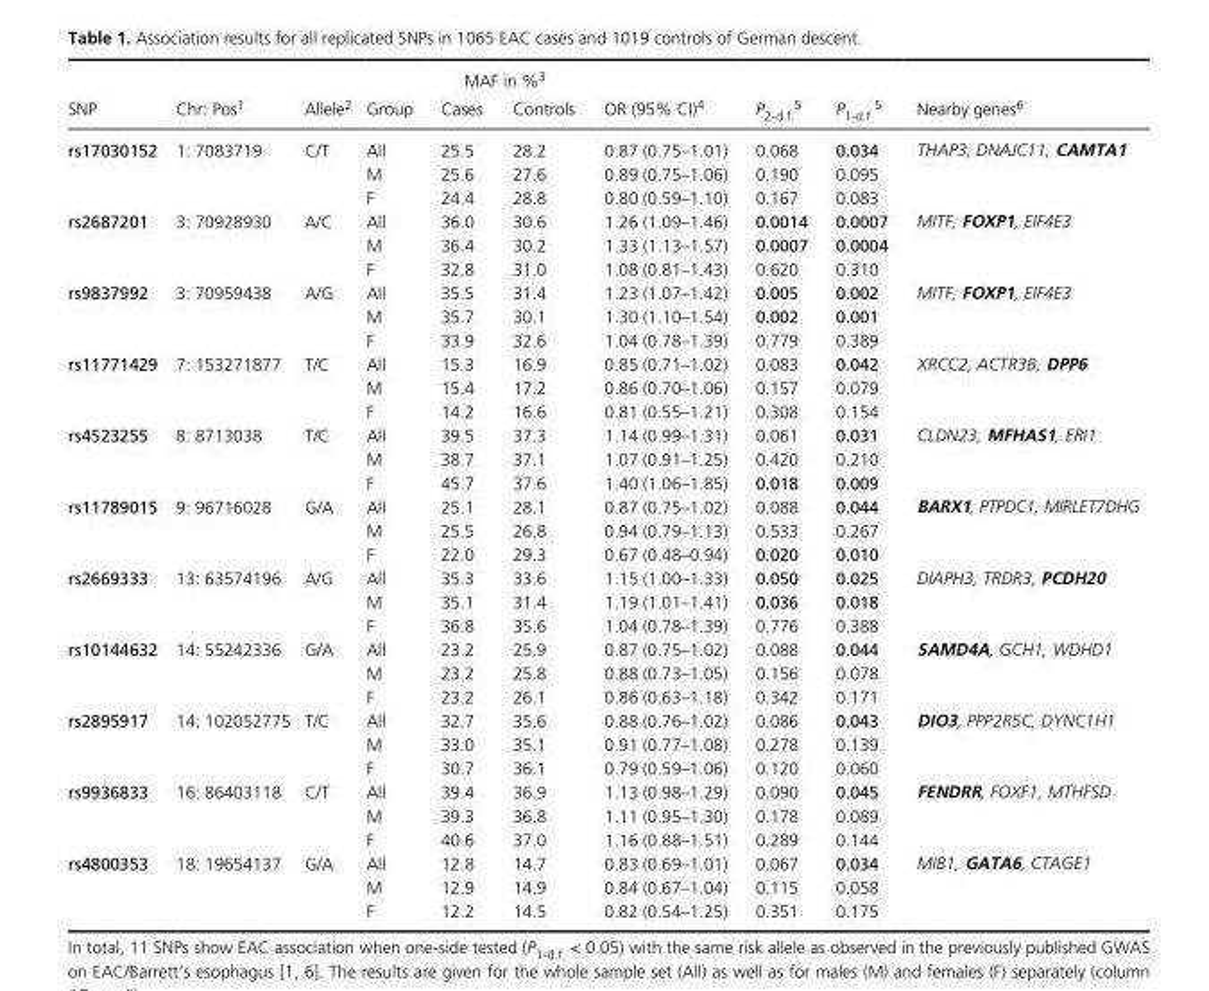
<table><thead><tr><td colspan="10">MAF in %<sup>3</sup></td></tr><tr><td>SNP</td><td>Chr: Pos<sup>1</sup></td><td>Allele<sup>2</sup></td><td>Group</td><td>Cases</td><td>Controls</td><td>OR (95% CI)<sup>4</sup></td><td>P<sub>2-d.f.</sub> 5</td><td>P<sub>1-d.f.</sub> 5</td><td>Nearby genes<sup>6</sup></td></tr></thead><tbody><tr><td rowspan="3">rs17030152</td><td rowspan="3">1: 7083719</td><td rowspan="3">C/T</td><td>All</td><td>25.5</td><td>28.2</td><td>0.87 (0.75–1.01)</td><td>0.068</td><td>0.034</td><td rowspan="3">THAP3, DNAJC11, CAMTA1</td></tr><tr><td>M</td><td>25.6</td><td>27.6</td><td>0.89 (0.75–1.06)</td><td>0.190</td><td>0.095</td></tr><tr><td>F</td><td>24.4</td><td>28.8</td><td>0.80 (0.59–1.10)</td><td>0.167</td><td>0.083</td></tr><tr><td rowspan="3">rs2687201</td><td rowspan="3">3: 70928930</td><td rowspan="3">A/C</td><td>All</td><td>36.0</td><td>30.6</td><td>1.26 (1.09–1.46)</td><td>0.0014</td><td>0.0007</td><td rowspan="3">MITF, FOXP1, EIF4E3</td></tr><tr><td>M</td><td>36.4</td><td>30.2</td><td>1.33 (1.13–1.57)</td><td>0.0007</td><td>0.0004</td></tr><tr><td>F</td><td>32.8</td><td>31.0</td><td>1.08 (0.81–1.43)</td><td>0.620</td><td>0.310</td></tr><tr><td rowspan="3">rs9837992</td><td rowspan="3">3: 70959438</td><td rowspan="3">A/G</td><td>All</td><td>35.5</td><td>31.4</td><td>1.23 (1.07–1.42)</td><td>0.005</td><td>0.002</td><td rowspan="3">MITF, FOXP1, EIF4E3</td></tr><tr><td>M</td><td>35.7</td><td>30.1</td><td>1.30 (1.10–1.54)</td><td>0.002</td><td>0.001</td></tr><tr><td>F</td><td>33.9</td><td>32.6</td><td>1.04 (0.78–1.39)</td><td>0.779</td><td>0.389</td></tr><tr><td rowspan="3">rs11771429</td><td rowspan="3">7: 153271877</td><td rowspan="3">T/C</td><td>All</td><td>15.3</td><td>16.9</td><td>0.85 (0.71–1.02)</td><td>0.083</td><td>0.042</td><td rowspan="3">XRCC2, ACTR3B, DPP6</td></tr><tr><td>M</td><td>15.4</td><td>17.2</td><td>0.86 (0.70–1.06)</td><td>0.157</td><td>0.079</td></tr><tr><td>F</td><td>14.2</td><td>16.6</td><td>0.81 (0.55–1.21)</td><td>0.308</td><td>0.154</td></tr><tr><td rowspan="3">rs4523255</td><td rowspan="3">8: 8713038</td><td rowspan="3">T/C</td><td>All</td><td>39.5</td><td>37.3</td><td>1.14 (0.99–1.31)</td><td>0.061</td><td>0.031</td><td rowspan="3">CLDN23, MFHAS1, ERI1</td></tr><tr><td>M</td><td>38.7</td><td>37.1</td><td>1.07 (0.91–1.25)</td><td>0.420</td><td>0.210</td></tr><tr><td>F</td><td>45.7</td><td>37.6</td><td>1.40 (1.06–1.85)</td><td>0.018</td><td>0.009</td></tr><tr><td rowspan="3">rs11789015</td><td rowspan="3">9: 96716028</td><td rowspan="3">G/A</td><td>All</td><td>25.1</td><td>28.1</td><td>0.87 (0.75–1.02)</td><td>0.088</td><td>0.044</td><td rowspan="3">BARX1, PTPDC1, MIRLET7DHG</td></tr><tr><td>M</td><td>25.5</td><td>26.8</td><td>0.94 (0.79–1.13)</td><td>0.533</td><td>0.267</td></tr><tr><td>F</td><td>22.0</td><td>29.3</td><td>0.67 (0.48–0.94)</td><td>0.020</td><td>0.010</td></tr><tr><td rowspan="3">rs2669333</td><td rowspan="3">13: 63574196</td><td rowspan="3">A/G</td><td>All</td><td>35.3</td><td>33.6</td><td>1.15 (1.00–1.33)</td><td>0.050</td><td>0.025</td><td rowspan="3">DIAPH3, TRDR3, PCDH20</td></tr><tr><td>M</td><td>35.1</td><td>31.4</td><td>1.19 (1.01–1.41)</td><td>0.036</td><td>0.018</td></tr><tr><td>F</td><td>36.8</td><td>35.6</td><td>1.04 (0.78–1.39)</td><td>0.776</td><td>0.388</td></tr><tr><td rowspan="3">rs10144632</td><td rowspan="3">14: 55242336</td><td rowspan="3">G/A</td><td>All</td><td>23.2</td><td>25.9</td><td>0.87 (0.75–1.02)</td><td>0.088</td><td>0.044</td><td rowspan="3">SAMD4A, GCH1, WDHD1</td></tr><tr><td>M</td><td>23.2</td><td>25.8</td><td>0.88 (0.73–1.05)</td><td>0.156</td><td>0.078</td></tr><tr><td>F</td><td>23.2</td><td>26.1</td><td>0.86 (0.63–1.18)</td><td>0.342</td><td>0.171</td></tr><tr><td rowspan="3">rs2895917</td><td rowspan="3">14: 102052775</td><td rowspan="3">T/C</td><td>All</td><td>32.7</td><td>35.6</td><td>0.88 (0.76–1.02)</td><td>0.086</td><td>0.043</td><td rowspan="3">DIO3, PPP2R5C, DYNC1H1</td></tr><tr><td>M</td><td>33.0</td><td>35.1</td><td>0.91 (0.77–1.08)</td><td>0.278</td><td>0.139</td></tr><tr><td>F</td><td>30.7</td><td>36.1</td><td>0.79 (0.59–1.06)</td><td>0.120</td><td>0.060</td></tr><tr><td rowspan="3">rs9936833</td><td rowspan="3">16: 86403118</td><td rowspan="3">C/T</td><td>All</td><td>39.4</td><td>36.9</td><td>1.13 (0.98–1.29)</td><td>0.090</td><td>0.045</td><td rowspan="3">FENDRR, FOXF1, MTHFSD</td></tr><tr><td>M</td><td>39.3</td><td>36.8</td><td>1.11 (0.95–1.30)</td><td>0.178</td><td>0.089</td></tr><tr><td>F</td><td>40.6</td><td>37.0</td><td>1.16 (0.88–1.51)</td><td>0.289</td><td>0.144</td></tr><tr><td rowspan="3">rs4800353</td><td rowspan="3">18: 19654137</td><td rowspan="3">G/A</td><td>All</td><td>12.8</td><td>14.7</td><td>0.83 (0.69–1.01)</td><td>0.067</td><td>0.034</td><td rowspan="3">MIB1, GATA6, CTAGE1</td></tr><tr><td>M</td><td>12.9</td><td>14.9</td><td>0.84 (0.67–1.04)</td><td>0.115</td><td>0.058</td></tr><tr><td>F</td><td>12.2</td><td>14.5</td><td>0.82 (0.54–1.25)</td><td>0.351</td><td>0.175</td></tr></tbody></table>